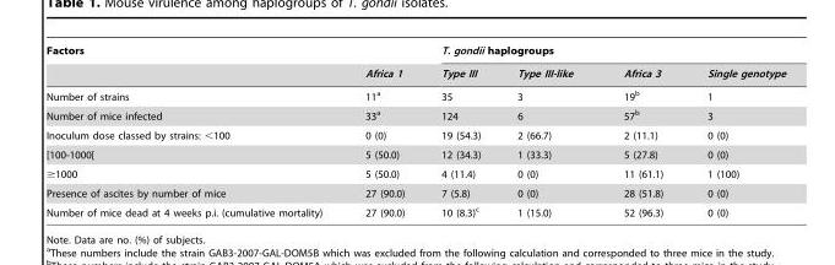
<table><thead><tr><td rowspan="2">Factors</td><td rowspan="2">Africa 1</td><td colspan="4">T. gondii haplogroups</td></tr><tr><td>Type III</td><td>Type III-like</td><td>Africa 3</td><td>Single genotype</td></tr></thead><tbody><tr><td>Number of strains</td><td>11<sup>a</sup></td><td>35</td><td>3</td><td>19<sup>b</sup></td><td>1</td></tr><tr><td>Number of mice infected</td><td>33<sup>a</sup></td><td>124</td><td>6</td><td>57<sup>b</sup></td><td>3</td></tr><tr><td>Inoculum dose classed by strains: &lt;100</td><td>0 (0)</td><td>19 (54.3)</td><td>2 (66.7)</td><td>2 (11.1)</td><td>0 (0)</td></tr><tr><td>[100-1000[</td><td>5 (50.0)</td><td>12 (34.3)</td><td>1 (33.3)</td><td>5 (27.8)</td><td>0 (0)</td></tr><tr><td>≥1000</td><td>5 (50.0)</td><td>4 (11.4)</td><td>0 (0)</td><td>11 (61.1)</td><td>1 (100)</td></tr><tr><td>Presence of ascites by number of mice</td><td>27 (90.0)</td><td>7 (5.8)</td><td>0 (0)</td><td>28 (51.8)</td><td>0 (0)</td></tr><tr><td>Number of mice dead at 4 weeks p.i. (cumulative mortality)</td><td>27 (90.0)</td><td>10 (8.3)<sup>c</sup></td><td>1 (15.0)</td><td>52 (96.3)</td><td>0 (0)</td></tr></tbody></table>